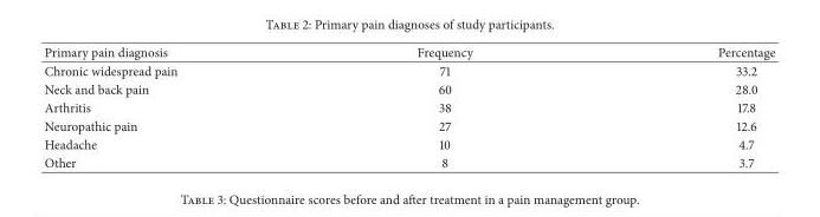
<table><thead><tr><td>Primary pain diagnosis</td><td>Frequency</td><td>Percentage</td></tr></thead><tbody><tr><td>Chronic widespread pain</td><td>71</td><td>33.2</td></tr><tr><td>Neck and back pain</td><td>60</td><td>28.0</td></tr><tr><td>Arthritis</td><td>38</td><td>17.8</td></tr><tr><td>Neuropathic pain</td><td>27</td><td>12.6</td></tr><tr><td>Headache</td><td>10</td><td>4.7</td></tr><tr><td>Other</td><td>8</td><td>3.7</td></tr></tbody></table>